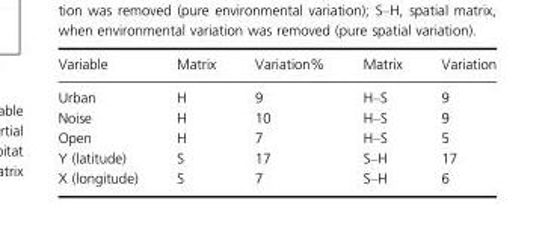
<table><thead><tr><td>Variable</td><td>Matrix</td><td>Variation%</td><td>Matrix</td><td>Variation</td></tr></thead><tbody><tr><td>Urban</td><td>H</td><td>9</td><td>H–S</td><td>9</td></tr><tr><td>Noise</td><td>H</td><td>10</td><td>H–S</td><td>9</td></tr><tr><td>Open</td><td>H</td><td>7</td><td>H–S</td><td>5</td></tr><tr><td>Y (latitude)</td><td>S</td><td>17</td><td>S–H</td><td>17</td></tr><tr><td>X (longitude)</td><td>S</td><td>7</td><td>S–H</td><td>6</td></tr></tbody></table>